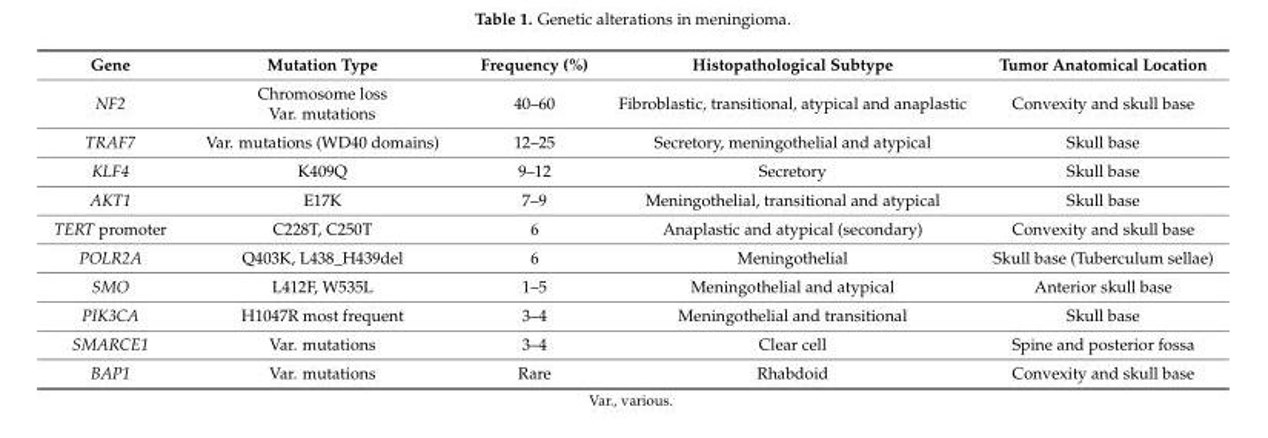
<table><thead><tr><td>Gene</td><td>Mutation Type</td><td>Frequency (%)</td><td>Histopathological Subtype</td><td>Tumor Anatomical Location</td></tr></thead><tbody><tr><td>NF2</td><td>Chromosome loss Var. mutations</td><td>40–60</td><td>Fibroblastic, transitional, atypical and anaplastic</td><td>Convexity and skull base</td></tr><tr><td>TRAF7</td><td>Var. mutations (WD40 domains)</td><td>12–25</td><td>Secretory, meningothelial and atypical</td><td>Skull base</td></tr><tr><td>KLF4</td><td>K409Q</td><td>9–12</td><td>Secretory</td><td>Skull base</td></tr><tr><td>AKT1</td><td>E17K</td><td>7–9</td><td>Meningothelial, transitional and atypical</td><td>Skull base</td></tr><tr><td>TERT promoter</td><td>C228T, C250T</td><td>6</td><td>Anaplastic and atypical (secondary)</td><td>Convexity and skull base</td></tr><tr><td>POLR2A</td><td>Q403K, L438_H439del</td><td>6</td><td>Meningothelial</td><td>Skull base (Tuberculum sellae)</td></tr><tr><td>SMO</td><td>L412F, W535L</td><td>1–5</td><td>Meningothelial and atypical</td><td>Anterior skull base</td></tr><tr><td>PIK3CA</td><td>H1047R most frequent</td><td>3–4</td><td>Meningothelial and transitional</td><td>Skull base</td></tr><tr><td>SMARCE1</td><td>Var. mutations</td><td>3–4</td><td>Clear cell</td><td>Spine and posterior fossa</td></tr><tr><td>BAP1</td><td>Var. mutations</td><td>Rare</td><td>Rhabdoid</td><td>Convexity and skull base</td></tr></tbody></table>